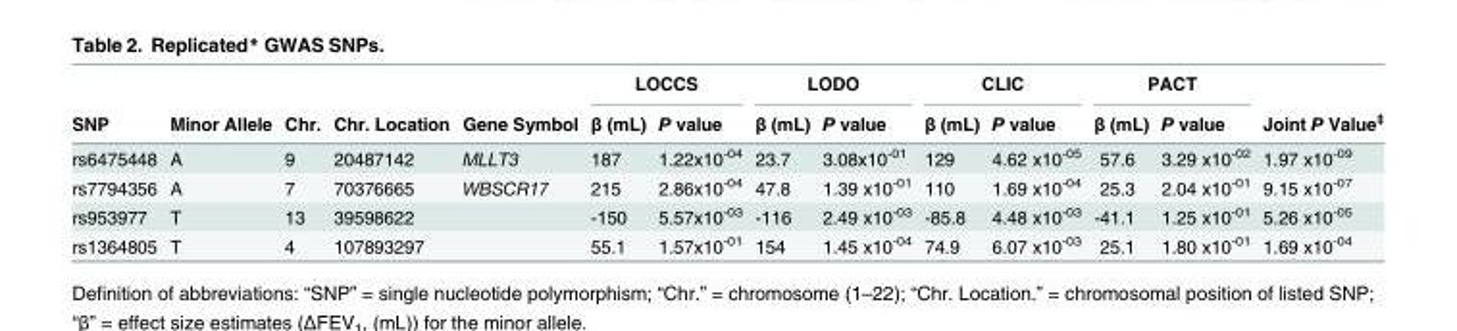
<table><thead><tr><td rowspan="2">SNP</td><td rowspan="2">Minor Allele</td><td rowspan="2">Chr.</td><td rowspan="2">Chr. Location</td><td rowspan="2">Gene Symbol</td><td colspan="2">LOCCS</td><td colspan="2">LODO</td><td colspan="2">CLIC</td><td colspan="2">PACT</td><td rowspan="2">Joint P Value<sup>‡</sup></td></tr><tr><td>β (mL)</td><td>P value</td><td>β (mL)</td><td>P value</td><td>β (mL)</td><td>P value</td><td>β (mL)</td><td>P value</td></tr></thead><tbody><tr><td>rs6475448</td><td>A</td><td>9</td><td>20487142</td><td>MLLT3</td><td>187</td><td>1.22x10<sup>-04</sup></td><td>23.7</td><td>3.08x10<sup>-01</sup></td><td>129</td><td>4.62 x10<sup>-05</sup></td><td>57.6</td><td>3.29 x10<sup>-02</sup></td><td>1.97 x10<sup>-09</sup></td></tr><tr><td>rs7794356</td><td>A</td><td>7</td><td>70376665</td><td>WBSCR17</td><td>215</td><td>2.86x10<sup>-04</sup></td><td>47.8</td><td>1.39 x10<sup>-01</sup></td><td>110</td><td>1.69 x10<sup>-04</sup></td><td>25.3</td><td>2.04 x10<sup>-01</sup></td><td>9.15 x10<sup>-07</sup></td></tr><tr><td>rs953977</td><td>T</td><td>13</td><td>39598622</td><td></td><td>-150</td><td>5.57x10<sup>-03</sup></td><td>-116</td><td>2.49 x10<sup>-03</sup></td><td>-85.8</td><td>4.48 x10<sup>-03</sup></td><td>-41.1</td><td>1.25 x10<sup>-01</sup></td><td>5.26 x10<sup>-05</sup></td></tr><tr><td>rs1364805</td><td>T</td><td>4</td><td>107893297</td><td></td><td>55.1</td><td>1.57x10<sup>-01</sup></td><td>154</td><td>1.45 x10<sup>-04</sup></td><td>74.9</td><td>6.07 x10<sup>-03</sup></td><td>25.1</td><td>1.80 x10<sup>-01</sup></td><td>1.69 x10<sup>-04</sup></td></tr></tbody></table>